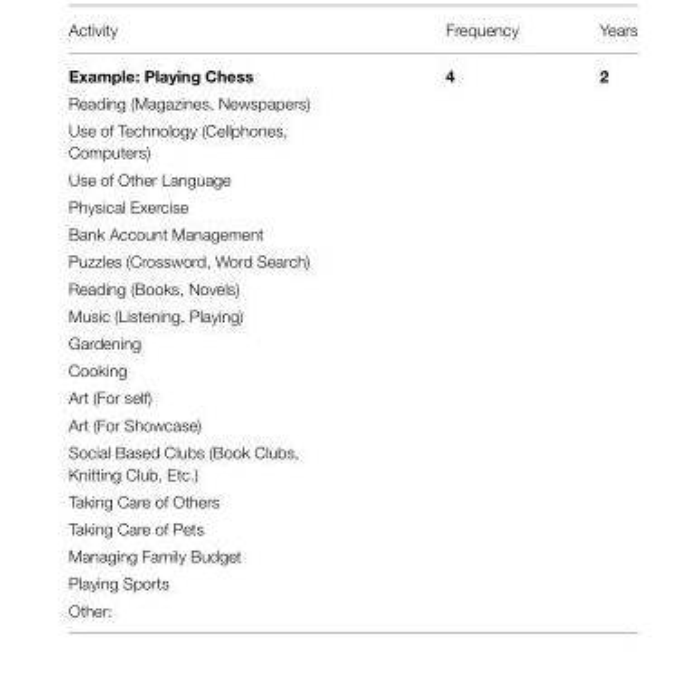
<table><thead><tr><td>Example: Playing Chess</td><td>4</td><td>2</td></tr></thead><tbody><tr><td colspan="3">Reading (Magazines, Newspapers)</td></tr><tr><td colspan="3">Use of Technology (Cellphones, Computers)</td></tr><tr><td colspan="3">Use of Other Language</td></tr><tr><td colspan="3">Physical Exercise</td></tr><tr><td colspan="3">Bank Account Management</td></tr><tr><td colspan="3">Puzzles (Crossword, Word Search)</td></tr><tr><td colspan="3">Reading (Books, Novels)</td></tr><tr><td colspan="3">Music (Listening, Playing)</td></tr><tr><td colspan="3">Gardening</td></tr><tr><td colspan="3">Cooking</td></tr><tr><td colspan="3">Art (For self)</td></tr><tr><td colspan="3">Art (For Showcase)</td></tr><tr><td colspan="3">Social Based Clubs (Book Clubs, Knitting Club, Etc.)</td></tr><tr><td colspan="3">Taking Care of Others</td></tr><tr><td colspan="3">Taking Care of Pets</td></tr><tr><td colspan="3">Managing Family Budget</td></tr><tr><td colspan="3">Playing Sports</td></tr><tr><td colspan="3">Other:</td></tr></tbody></table>